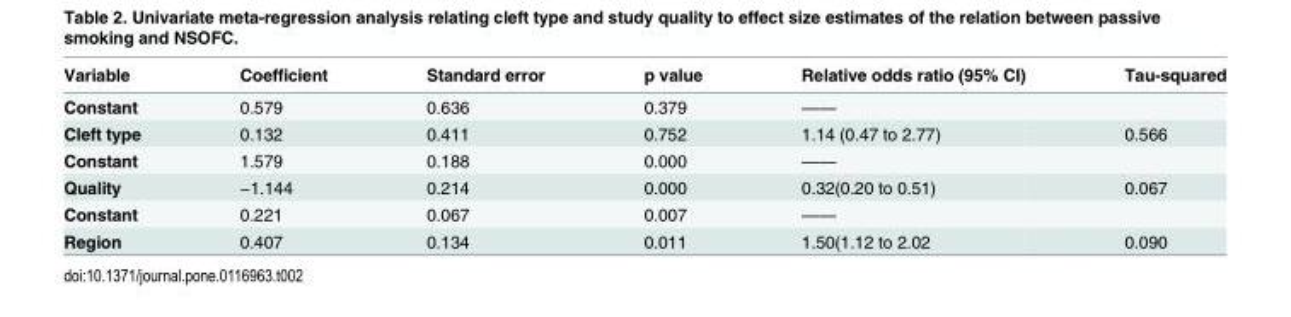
<table><thead><tr><td>Variable</td><td>Coefficient</td><td>Standard error</td><td>p value</td><td>Relative odds ratio (95% CI)</td><td>Tau-squared</td></tr></thead><tbody><tr><td>Constant</td><td>0.579</td><td>0.636</td><td>0.379</td><td>——</td><td></td></tr><tr><td>Cleft type</td><td>0.132</td><td>0.411</td><td>0.752</td><td>1.14 (0.47 to 2.77)</td><td>0.566</td></tr><tr><td>Constant</td><td>1.579</td><td>0.188</td><td>0.000</td><td>——</td><td></td></tr><tr><td>Quality</td><td>−1.144</td><td>0.214</td><td>0.000</td><td>0.32(0.20 to 0.51)</td><td>0.067</td></tr><tr><td>Constant</td><td>0.221</td><td>0.067</td><td>0.007</td><td>——</td><td></td></tr><tr><td>Region</td><td>0.407</td><td>0.134</td><td>0.011</td><td>1.50(1.12 to 2.02</td><td>0.090</td></tr></tbody></table>